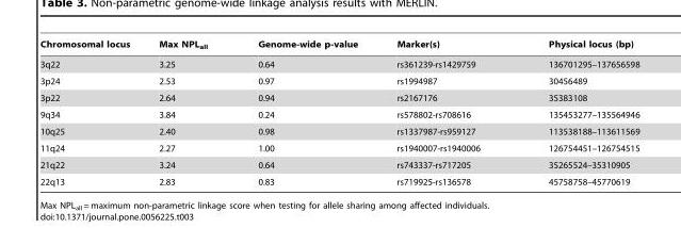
<table><thead><tr><td>Chromosomal locus</td><td>Max NPL<sub>all</sub></td><td>Genome-wide p-value</td><td>Marker(s)</td><td>Physical locus (bp)</td></tr></thead><tbody><tr><td>3q22</td><td>3.25</td><td>0.64</td><td>rs361239-rs1429759</td><td>136701295–137656598</td></tr><tr><td>3p24</td><td>2.53</td><td>0.97</td><td>rs1994987</td><td>30456489</td></tr><tr><td>3p22</td><td>2.64</td><td>0.94</td><td>rs2167176</td><td>35383108</td></tr><tr><td>9q34</td><td>3.84</td><td>0.24</td><td>rs578802-rs708616</td><td>135453277–135564946</td></tr><tr><td>10q25</td><td>2.40</td><td>0.98</td><td>rs1337987-rs959127</td><td>113538188–113611569</td></tr><tr><td>11q24</td><td>2.27</td><td>1.00</td><td>rs1940007-rs1940006</td><td>126754451–126754515</td></tr><tr><td>21q22</td><td>3.24</td><td>0.64</td><td>rs743337-rs717205</td><td>35265524–35310905</td></tr><tr><td>22q13</td><td>2.83</td><td>0.83</td><td>rs719925-rs136578</td><td>45758758–45770619</td></tr></tbody></table>